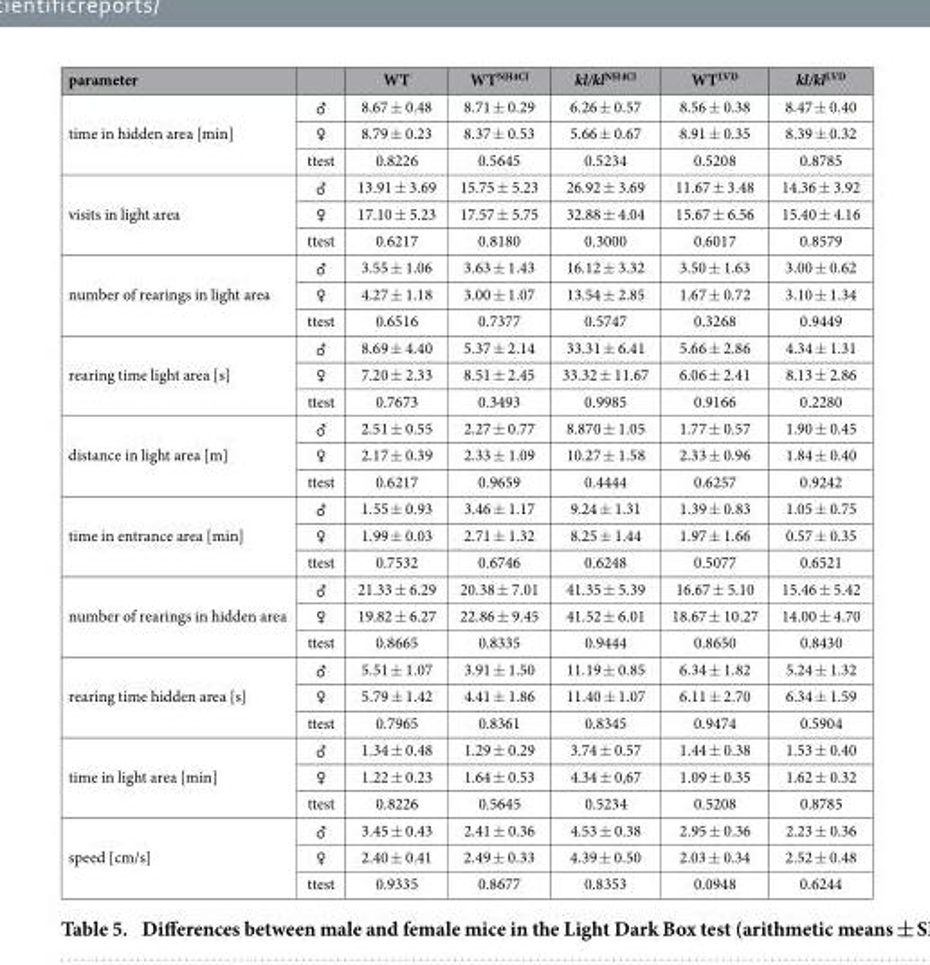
<table><thead><tr><td>parameter</td><td></td><td>WT</td><td>WT<sup>NH4Cl</sup></td><td>kl/kl<sup>NH4Cl</sup></td><td>WT<sup>LVD</sup></td><td>kl/kl<sup>LVD</sup></td></tr></thead><tbody><tr><td rowspan="3">time in hidden area [min]</td><td>♂</td><td>8.67 ± 0.48</td><td>8.71 ± 0.29</td><td>6.26 ± 0.57</td><td>8.56 ± 0.38</td><td>8.47 ± 0.40</td></tr><tr><td>♀</td><td>8.79 ± 0.23</td><td>8.37 ± 0.53</td><td>5.66 ± 0.67</td><td>8.91 ± 0.35</td><td>8.39 ± 0.32</td></tr><tr><td>ttest</td><td>0.8226</td><td>0.5645</td><td>0.5234</td><td>0.5208</td><td>0.8785</td></tr><tr><td rowspan="3">visits in light area</td><td>♂</td><td>13.91 ± 3.69</td><td>15.75 ± 5.23</td><td>26.92 ± 3.69</td><td>11.67 ± 3.48</td><td>14.36 ± 3.92</td></tr><tr><td>♀</td><td>17.10 ± 5.23</td><td>17.57 ± 5.75</td><td>32.88 ± 4.04</td><td>15.67 ± 6.56</td><td>15.40 ± 4.16</td></tr><tr><td>ttest</td><td>0.6217</td><td>0.8180</td><td>0.3000</td><td>0.6017</td><td>0.8579</td></tr><tr><td rowspan="3">number of rearings in light area</td><td>♂</td><td>3.55 ± 1.06</td><td>3.63 ± 1.43</td><td>16.12 ± 3.32</td><td>3.50 ± 1.63</td><td>3.00 ± 0.62</td></tr><tr><td>♀</td><td>4.27 ± 1.18</td><td>3.00 ± 1.07</td><td>13.54 ± 2.85</td><td>1.67 ± 0.72</td><td>3.10 ± 1.34</td></tr><tr><td>ttest</td><td>0.6516</td><td>0.7377</td><td>0.5747</td><td>0.3268</td><td>0.9449</td></tr><tr><td rowspan="3">rearing time light area [s]</td><td>♂</td><td>8.69 ± 4.40</td><td>5.37 ± 2.14</td><td>33.31 ± 6.41</td><td>5.66 ± 2.86</td><td>4.34 ± 1.31</td></tr><tr><td>♀</td><td>7.20 ± 2.33</td><td>8.51 ± 2.45</td><td>33.32 ± 11.67</td><td>6.06 ± 2.41</td><td>8.13 ± 2.86</td></tr><tr><td>ttest</td><td>0.7673</td><td>0.3493</td><td>0.9985</td><td>0.9166</td><td>0.2280</td></tr><tr><td rowspan="3">distance in light area [m]</td><td>♂</td><td>2.51 ± 0.55</td><td>2.27 ± 0.77</td><td>8.870 ± 1.05</td><td>1.77 ± 0.57</td><td>1.90 ± 0.45</td></tr><tr><td>♀</td><td>2.17 ± 0.39</td><td>2.33 ± 1.09</td><td>10.27 ± 1.58</td><td>2.33 ± 0.96</td><td>1.84 ± 0.40</td></tr><tr><td>ttest</td><td>0.6217</td><td>0.9659</td><td>0.4444</td><td>0.6257</td><td>0.9242</td></tr><tr><td rowspan="3">time in entrance area [min]</td><td>♂</td><td>1.55 ± 0.93</td><td>3.46 ± 1.17</td><td>9.24 ± 1.31</td><td>1.39 ± 0.83</td><td>1.05 ± 0.75</td></tr><tr><td>♀</td><td>1.99 ± 0.03</td><td>2.71 ± 1.32</td><td>8.25 ± 1.44</td><td>1.97 ± 1.66</td><td>0.57 ± 0.35</td></tr><tr><td>ttest</td><td>0.7532</td><td>0.6746</td><td>0.6248</td><td>0.5077</td><td>0.6521</td></tr><tr><td rowspan="3">number of rearings in hidden area</td><td>♂</td><td>21.33 ± 6.29</td><td>20.38 ± 7.01</td><td>41.35 ± 5.39</td><td>16.67 ± 5.10</td><td>15.46 ± 5.42</td></tr><tr><td>♀</td><td>19.82 ± 6.27</td><td>22.86 ± 9.45</td><td>41.52 ± 6.01</td><td>18.67 ± 10.27</td><td>14.00 ± 4.70</td></tr><tr><td>ttest</td><td>0.8665</td><td>0.8335</td><td>0.9444</td><td>0.8650</td><td>0.8430</td></tr><tr><td rowspan="3">rearing time hidden area [s]</td><td>♂</td><td>5.51 ± 1.07</td><td>3.91 ± 1.50</td><td>11.19 ± 0.85</td><td>6.34 ± 1.82</td><td>5.24 ± 1.32</td></tr><tr><td>♀</td><td>5.79 ± 1.42</td><td>4.41 ± 1.86</td><td>11.40 ± 1.07</td><td>6.11 ± 2.70</td><td>6.34 ± 1.59</td></tr><tr><td>ttest</td><td>0.7965</td><td>0.8361</td><td>0.8345</td><td>0.9474</td><td>0.5904</td></tr><tr><td rowspan="3">time in light area [min]</td><td>♂</td><td>1.34 ± 0.48</td><td>1.29 ± 0.29</td><td>3.74 ± 0.57</td><td>1.44 ± 0.38</td><td>1.53 ± 0.40</td></tr><tr><td>♀</td><td>1.22 ± 0.23</td><td>1.64 ± 0.53</td><td>4.34 ± 0,67</td><td>1.09 ± 0.35</td><td>1.62 ± 0.32</td></tr><tr><td>ttest</td><td>0.8226</td><td>0.5645</td><td>0.5234</td><td>0.5208</td><td>0.8785</td></tr><tr><td rowspan="3">speed [cm/s]</td><td>♂</td><td>3.45 ± 0.43</td><td>2.41 ± 0.36</td><td>4.53 ± 0.38</td><td>2.95 ± 0.36</td><td>2.23 ± 0.36</td></tr><tr><td>♀</td><td>2.40 ± 0.41</td><td>2.49 ± 0.33</td><td>4.39 ± 0.50</td><td>2.03 ± 0.34</td><td>2.52 ± 0.48</td></tr><tr><td>ttest</td><td>0.9335</td><td>0.8677</td><td>0.8353</td><td>0.0948</td><td>0.6244</td></tr></tbody></table>